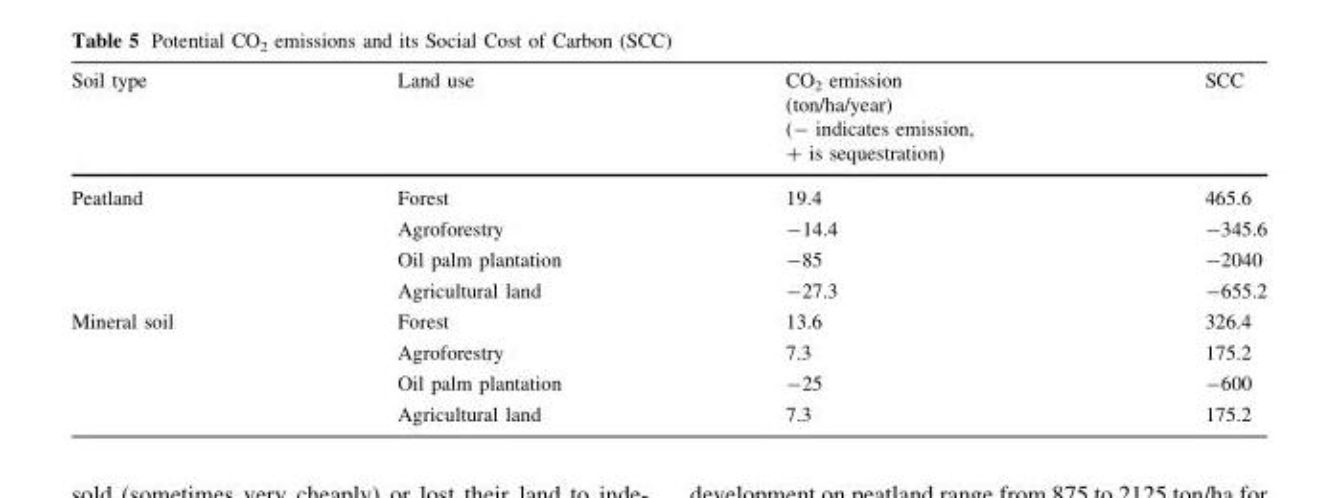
<table><thead><tr><td>Soil type</td><td>Land use</td><td>CO<sub>2</sub> emission (ton/ha/year) (- indicates emission, + is sequestration)</td><td>SCC</td></tr></thead><tbody><tr><td rowspan="4">Peatland</td><td>Forest</td><td>19.4</td><td>465.6</td></tr><tr><td>Agroforestry</td><td>-14.4</td><td>-345.6</td></tr><tr><td>Oil palm plantation</td><td>-85</td><td>-2040</td></tr><tr><td>Agricultural land</td><td>-27.3</td><td>-655.2</td></tr><tr><td rowspan="4">Mineral soil</td><td>Forest</td><td>13.6</td><td>326.4</td></tr><tr><td>Agroforestry</td><td>7.3</td><td>175.2</td></tr><tr><td>Oil palm plantation</td><td>-25</td><td>-600</td></tr><tr><td>Agricultural land</td><td>7.3</td><td>175.2</td></tr></tbody></table>